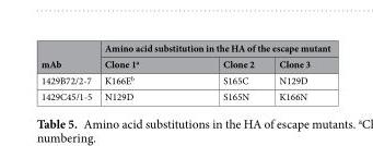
<table><thead><tr><td rowspan="2">mAb</td><td colspan="3">Amino acid substitution in the HA of the escape mutant</td></tr><tr><td>Clone 1<sup>a</sup></td><td>Clone 2</td><td>Clone 3</td></tr></thead><tbody><tr><td>1429B72/2-7</td><td>K166E<sup>b</sup></td><td>S165C</td><td>N129D</td></tr><tr><td>1429C45/1-5</td><td>N129D</td><td>S165N</td><td>K166N</td></tr></tbody></table>